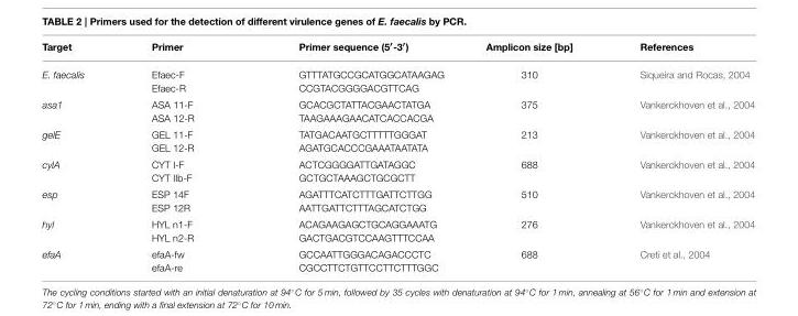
<table><thead><tr><td>Target</td><td>Primer</td><td>Primer sequence (5′-3′)</td><td>Amplicon size [bp]</td><td>References</td></tr></thead><tbody><tr><td>E. faecalis</td><td>Efaec-F Efaec-R</td><td>GTTTATGCCGCATGGCATAAGAG CCGTACGGGGACGTTCAG</td><td>310</td><td>Siqueira and Rocas, 2004</td></tr><tr><td>asa1</td><td>ASA 11-F ASA 12-R</td><td>GCACGCTATTACGAACTATGA TAAGAAAGAACATCACCACGA</td><td>375</td><td>Vankerckhoven et al., 2004</td></tr><tr><td>gelE</td><td>GEL 11-F GEL 12-R</td><td>TATGACAATGCTTTTTGGGAT AGATGCACCCGAAATAATATA</td><td>213</td><td>Vankerckhoven et al., 2004</td></tr><tr><td>cylA</td><td>CYT I-F CYT IIb-F</td><td>ACTCGGGGATTGATAGGC GCTGCTAAAGCTGCGCTT</td><td>688</td><td>Vankerckhoven et al., 2004</td></tr><tr><td>esp</td><td>ESP 14F ESP 12R</td><td>AGATTTCATCTTTGATTCTTGG AATTGATTCTTTAGCATCTGG</td><td>510</td><td>Vankerckhoven et al., 2004</td></tr><tr><td>hyl</td><td>HYL n1-F HYL n2-R</td><td>ACAGAAGAGCTGCAGGAAATG GACTGACGTCCAAGTTTCCAA</td><td>276</td><td>Vankerckhoven et al., 2004</td></tr><tr><td>efaA</td><td>efaA-fw efaA-re</td><td>GCCAATTGGGACAGACCCTC CGCCTTCTGTTCCTTCTTTGGC</td><td>688</td><td>Creti et al., 2004</td></tr></tbody></table>